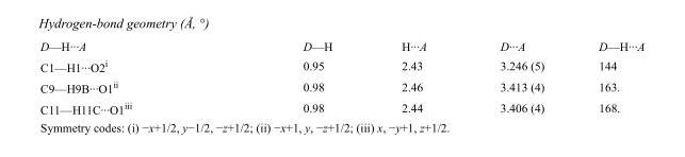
<table><tbody><tr><td>D—H···A</td><td>D—H</td><td>H···A</td><td>D···A</td><td>D—H···A</td></tr><tr><td>C1—H1···O2<sup>i</sup></td><td>0.95</td><td>2.43</td><td>3.246 (5)</td><td>144</td></tr><tr><td>C9—H9B···O1<sup>ii</sup></td><td>0.98</td><td>2.46</td><td>3.413 (4)</td><td>163.</td></tr><tr><td>C11—H11C···O1<sup>iii</sup></td><td>0.98</td><td>2.44</td><td>3.406 (4)</td><td>168.</td></tr></tbody></table>